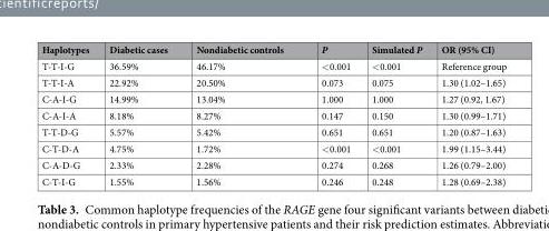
<table><thead><tr><td>Haplotypes</td><td>Diabetic cases</td><td>Nondiabetic controls</td><td>P</td><td>Simulated P</td><td>OR (95% CI)</td></tr></thead><tbody><tr><td>T-T-I-G</td><td>36.59%</td><td>46.17%</td><td>&lt;0.001</td><td>&lt;0.001</td><td>Reference group</td></tr><tr><td>T-T-I-A</td><td>22.92%</td><td>20.50%</td><td>0.073</td><td>0.075</td><td>1.30 (1.02–1.65)</td></tr><tr><td>C-A-I-G</td><td>14.99%</td><td>13.04%</td><td>1.000</td><td>1.000</td><td>1.27 (0.92, 1.67)</td></tr><tr><td>C-A-I-A</td><td>8.18%</td><td>8.27%</td><td>0.147</td><td>0.150</td><td>1.30 (0.99–1.71)</td></tr><tr><td>T-T-D-G</td><td>5.57%</td><td>5.42%</td><td>0.651</td><td>0.651</td><td>1.20 (0.87–1.63)</td></tr><tr><td>C-T-D-A</td><td>4.75%</td><td>1.72%</td><td>&lt;0.001</td><td>&lt;0.001</td><td>1.99 (1.15–3.44)</td></tr><tr><td>C-A-D-G</td><td>2.33%</td><td>2.28%</td><td>0.274</td><td>0.268</td><td>1.26 (0.79–2.00)</td></tr><tr><td>C-T-I-G</td><td>1.55%</td><td>1.56%</td><td>0.246</td><td>0.248</td><td>1.28 (0.69–2.38)</td></tr></tbody></table>